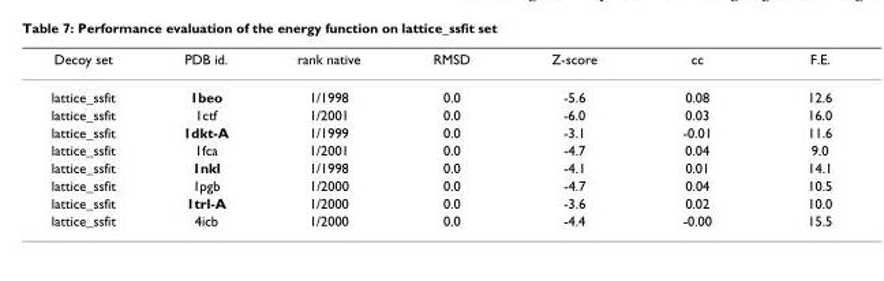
<table><thead><tr><td>Decoy set</td><td>PDB id.</td><td>rank native</td><td>RMSD</td><td>Z-score</td><td>cc</td><td>F.E.</td></tr></thead><tbody><tr><td>lattice_ssfit</td><td>1beo</td><td>1/1998</td><td>0.0</td><td>-5.6</td><td>0.08</td><td>12.6</td></tr><tr><td>lattice_ssfit</td><td>1ctf</td><td>1/2001</td><td>0.0</td><td>-6.0</td><td>0.03</td><td>16.0</td></tr><tr><td>lattice_ssfit</td><td>1dkt-A</td><td>1/1999</td><td>0.0</td><td>-3.1</td><td>-0.01</td><td>11.6</td></tr><tr><td>lattice_ssfit</td><td>1fca</td><td>1/2001</td><td>0.0</td><td>-4.7</td><td>0.04</td><td>9.0</td></tr><tr><td>lattice_ssfit</td><td>1nkl</td><td>1/1998</td><td>0.0</td><td>-4.1</td><td>0.01</td><td>14.1</td></tr><tr><td>lattice_ssfit</td><td>1pgb</td><td>1/2000</td><td>0.0</td><td>-4.7</td><td>0.04</td><td>10.5</td></tr><tr><td>lattice_ssfit</td><td>1trl-A</td><td>1/2000</td><td>0.0</td><td>-3.6</td><td>0.02</td><td>10.0</td></tr><tr><td>lattice_ssfit</td><td>4icb</td><td>1/2000</td><td>0.0</td><td>-4.4</td><td>-0.00</td><td>15.5</td></tr></tbody></table>